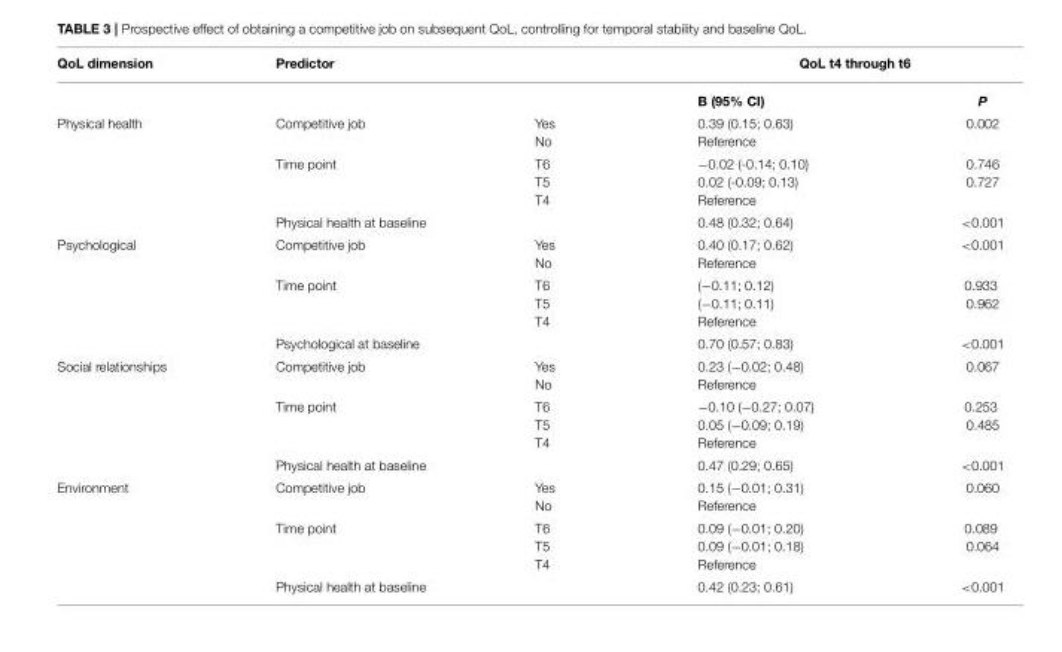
<table><thead><tr><td rowspan="2">QoL dimension</td><td rowspan="2">Predictor</td><td rowspan="2"></td><td colspan="2">QoL t4 through t6</td></tr><tr><td>B (95% CI)</td><td>P</td></tr></thead><tbody><tr><td rowspan="3">Physical health</td><td>Competitive job</td><td>Yes No</td><td>0.39 (0.15; 0.63) Reference</td><td>0.002</td></tr><tr><td>Time point</td><td>T6 T5 T4</td><td>−0.02 (-0.14; 0.10) 0.02 (-0.09; 0.13) Reference</td><td>0.746 0.727</td></tr><tr><td>Physical health at baseline</td><td></td><td>0.48 (0.32; 0.64)</td><td>&lt;0.001</td></tr><tr><td rowspan="3">Psychological</td><td>Competitive job</td><td>Yes No</td><td>0.40 (0.17; 0.62) Reference</td><td>&lt;0.001</td></tr><tr><td>Time point</td><td>T6 T5 T4</td><td>(−0.11; 0.12) (−0.11; 0.11) Reference</td><td>0.933 0.962</td></tr><tr><td>Psychological at baseline</td><td></td><td>0.70 (0.57; 0.83)</td><td>&lt;0.001</td></tr><tr><td rowspan="3">Social relationships</td><td>Competitive job</td><td>Yes No</td><td>0.23 (−0.02; 0.48) Reference</td><td>0.067</td></tr><tr><td>Time point</td><td>T6 T5 T4</td><td>−0.10 (−0.27; 0.07) 0.05 (−0.09; 0.19) Reference</td><td>0.253 0.485</td></tr><tr><td>Physical health at baseline</td><td></td><td>0.47 (0.29; 0.65)</td><td>&lt;0.001</td></tr><tr><td rowspan="3">Environment</td><td>Competitive job</td><td>Yes No</td><td>0.15 (−0.01; 0.31) Reference</td><td>0.060</td></tr><tr><td>Time point</td><td>T6 T5 T4</td><td>0.09 (−0.01; 0.20) 0.09 (−0.01; 0.18) Reference</td><td>0.089 0.064</td></tr><tr><td>Physical health at baseline</td><td></td><td>0.42 (0.23; 0.61)</td><td>&lt;0.001</td></tr></tbody></table>